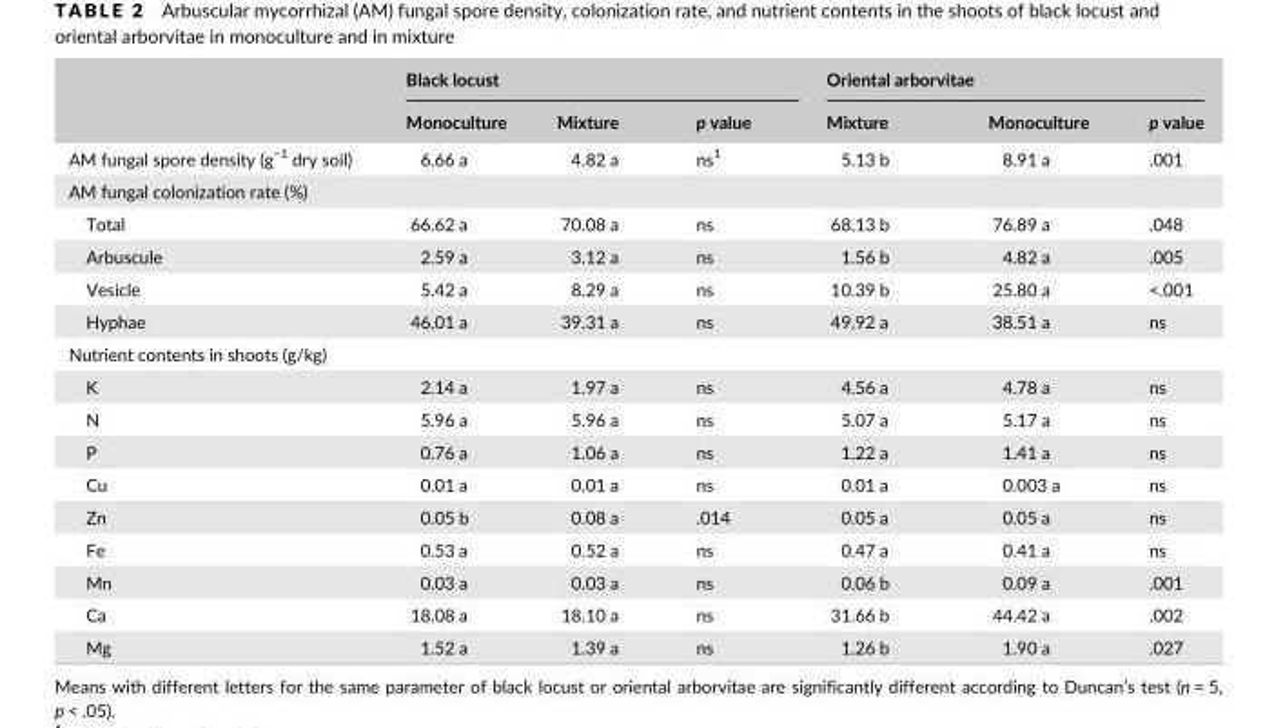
<table><thead><tr><td rowspan="2"></td><td colspan="3">Black locust</td><td colspan="3">Oriental arborvitae</td></tr><tr><td>Monoculture</td><td>Mixture</td><td>p value</td><td>Mixture</td><td>Monoculture</td><td>p value</td></tr></thead><tbody><tr><td>AM fungal spore density (g<sup>−1</sup> dry soil)</td><td>6.66 a</td><td>4.82 a</td><td>ns1</td><td>5.13 b</td><td>8.91 a</td><td>.001</td></tr><tr><td colspan="7">AM fungal colonization rate (%)</td></tr><tr><td>Total</td><td>66.62 a</td><td>70.08 a</td><td>ns</td><td>68.13 b</td><td>76.89 a</td><td>.048</td></tr><tr><td>Arbuscule</td><td>2.59 a</td><td>3.12 a</td><td>ns</td><td>1.56 b</td><td>4.82 a</td><td>.005</td></tr><tr><td>Vesicle</td><td>5.42 a</td><td>8.29 a</td><td>ns</td><td>10.39 b</td><td>25.80 a</td><td>&lt;.001</td></tr><tr><td>Hyphae</td><td>46.01 a</td><td>39.31 a</td><td>ns</td><td>49.92 a</td><td>38.51 a</td><td>ns</td></tr><tr><td colspan="7">Nutrient contents in shoots (g/kg)</td></tr><tr><td>K</td><td>2.14 a</td><td>1.97 a</td><td>ns</td><td>4.56 a</td><td>4.78 a</td><td>ns</td></tr><tr><td>N</td><td>5.96 a</td><td>5.96 a</td><td>ns</td><td>5.07 a</td><td>5.17 a</td><td>ns</td></tr><tr><td>P</td><td>0.76 a</td><td>1.06 a</td><td>ns</td><td>1.22 a</td><td>1.41 a</td><td>ns</td></tr><tr><td>Cu</td><td>0.01 a</td><td>0.01 a</td><td>ns</td><td>0.01 a</td><td>0.003 a</td><td>ns</td></tr><tr><td>Zn</td><td>0.05 b</td><td>0.08 a</td><td>.014</td><td>0.05 a</td><td>0.05 a</td><td>ns</td></tr><tr><td>Fe</td><td>0.53 a</td><td>0.52 a</td><td>ns</td><td>0.47 a</td><td>0.41 a</td><td>ns</td></tr><tr><td>Mn</td><td>0.03 a</td><td>0.03 a</td><td>ns</td><td>0.06 b</td><td>0.09 a</td><td>.001</td></tr><tr><td>Ca</td><td>18.08 a</td><td>18.10 a</td><td>ns</td><td>31.66 b</td><td>44.42 a</td><td>.002</td></tr><tr><td>Mg</td><td>1.52 a</td><td>1.39 a</td><td>ns</td><td>1.26 b</td><td>1.90 a</td><td>.027</td></tr></tbody></table>